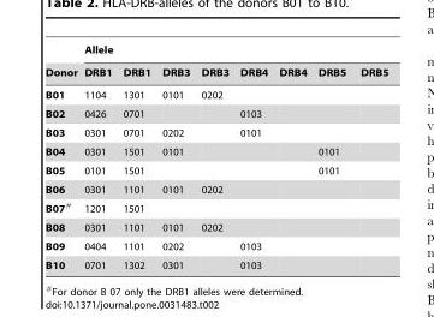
<table><thead><tr><td rowspan="2">Donor</td><td colspan="8">Allele</td></tr><tr><td>DRB1</td><td>DRB1</td><td>DRB3</td><td>DRB3</td><td>DRB4</td><td>DRB4</td><td>DRB5</td><td>DRB5</td></tr></thead><tbody><tr><td>B01</td><td>1104</td><td>1301</td><td>0101</td><td>0202</td><td></td><td></td><td></td><td></td></tr><tr><td>B02</td><td>0426</td><td>0701</td><td></td><td></td><td>0103</td><td></td><td></td><td></td></tr><tr><td>B03</td><td>0301</td><td>0701</td><td>0202</td><td></td><td>0101</td><td></td><td></td><td></td></tr><tr><td>B04</td><td>0301</td><td>1501</td><td>0101</td><td></td><td></td><td></td><td>0101</td><td></td></tr><tr><td>B05</td><td>0101</td><td>1501</td><td></td><td></td><td></td><td></td><td>0101</td><td></td></tr><tr><td>B06</td><td>0301</td><td>1101</td><td>0101</td><td>0202</td><td></td><td></td><td></td><td></td></tr><tr><td>B07#</td><td>1201</td><td>1501</td><td></td><td></td><td></td><td></td><td></td><td></td></tr><tr><td>B08</td><td>0301</td><td>1101</td><td>0101</td><td>0202</td><td></td><td></td><td></td><td></td></tr><tr><td>B09</td><td>0404</td><td>1101</td><td>0202</td><td></td><td>0103</td><td></td><td></td><td></td></tr><tr><td>B10</td><td>0701</td><td>1302</td><td>0301</td><td></td><td>0103</td><td></td><td></td><td></td></tr></tbody></table>